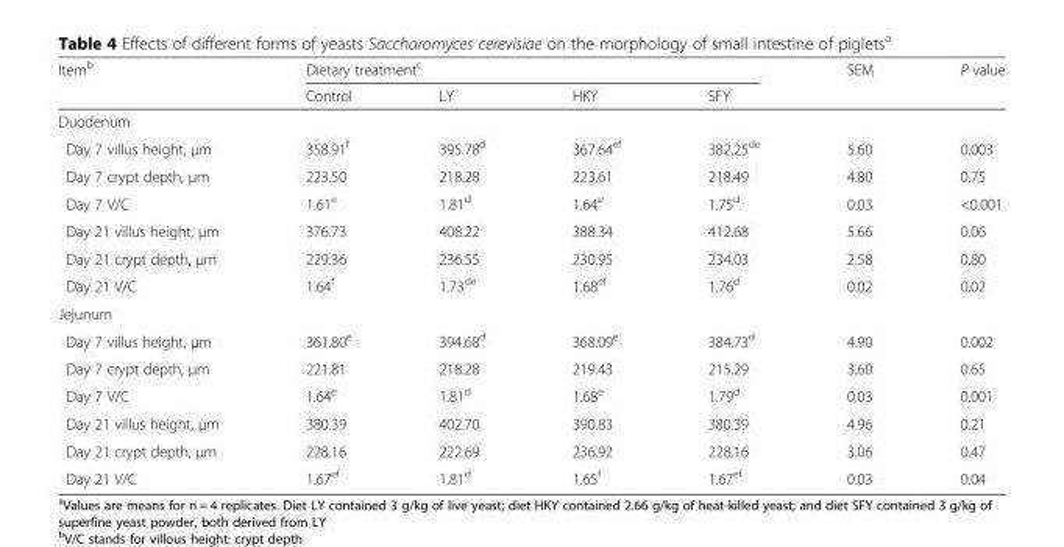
<table><thead><tr><td rowspan="2">Item<sup>b</sup></td><td colspan="4">Dietary treatment<sup>c</sup></td><td rowspan="2">SEM</td><td rowspan="2">P value</td></tr><tr><td>Control</td><td>LY</td><td>HKY</td><td>SFY</td></tr></thead><tbody><tr><td colspan="7">Duodenum</td></tr><tr><td>Day 7 villus height, μm</td><td>358.91<sup>f</sup></td><td>395.78<sup>d</sup></td><td>367.64<sup>ef</sup></td><td>382.25<sup>de</sup></td><td>5.60</td><td>0.003</td></tr><tr><td>Day 7 crypt depth, μm</td><td>223.50</td><td>218.28</td><td>223.61</td><td>218.49</td><td>4.80</td><td>0.75</td></tr><tr><td>Day 7 V/C</td><td>1.61<sup>e</sup></td><td>1.81<sup>d</sup></td><td>1.64<sup>e</sup></td><td>1.75<sup>d</sup></td><td>0.03</td><td>&lt;0.001</td></tr><tr><td>Day 21 villus height, μm</td><td>376.73</td><td>408.22</td><td>388.34</td><td>412.68</td><td>5.66</td><td>0.06</td></tr><tr><td>Day 21 crypt depth, μm</td><td>229.36</td><td>236.55</td><td>230.95</td><td>234.03</td><td>2.58</td><td>0.80</td></tr><tr><td>Day 21 V/C</td><td>1.64<sup>f</sup></td><td>1.73<sup>de</sup></td><td>1.68<sup>ef</sup></td><td>1.76<sup>d</sup></td><td>0.02</td><td>0.02</td></tr><tr><td colspan="7">Jejunum</td></tr><tr><td>Day 7 villus height, μm</td><td>361.80<sup>e</sup></td><td>394.68<sup>d</sup></td><td>368.09<sup>e</sup></td><td>384.73<sup>d</sup></td><td>4.90</td><td>0.002</td></tr><tr><td>Day 7 crypt depth, μm</td><td>221.81</td><td>218.28</td><td>219.43</td><td>215.29</td><td>3.60</td><td>0.65</td></tr><tr><td>Day 7 V/C</td><td>1.64<sup>e</sup></td><td>1.81<sup>d</sup></td><td>1.68<sup>e</sup></td><td>1.79<sup>d</sup></td><td>0.03</td><td>0.001</td></tr><tr><td>Day 21 villus height, μm</td><td>380.39</td><td>402.70</td><td>390.83</td><td>380.39</td><td>4.96</td><td>0.21</td></tr><tr><td>Day 21 crypt depth, μm</td><td>228.16</td><td>222.69</td><td>236.92</td><td>228.16</td><td>3.06</td><td>0.47</td></tr><tr><td>Day 21 V/C</td><td>1.67<sup>ef</sup></td><td>1.81<sup>d</sup></td><td>1.65<sup>f</sup></td><td>1.67<sup>ef</sup></td><td>0.03</td><td>0.04</td></tr></tbody></table>